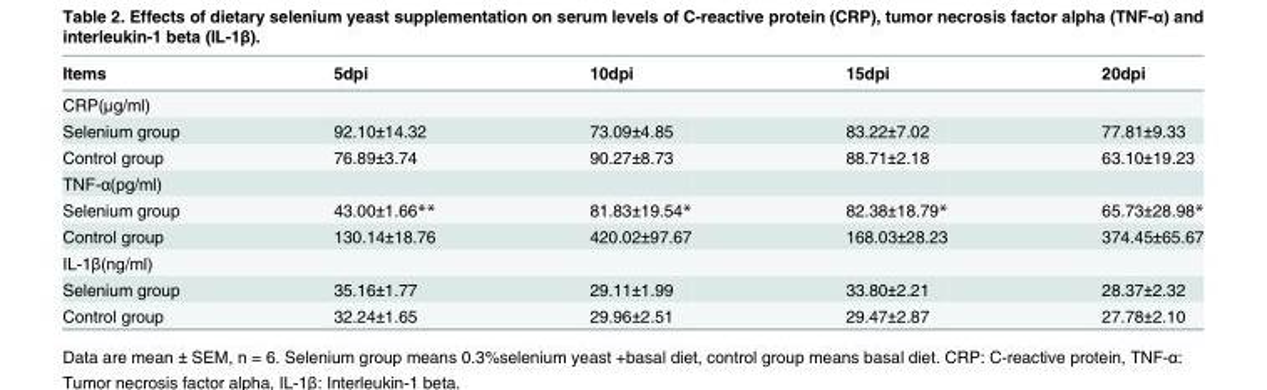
<table><thead><tr><td>Items</td><td>5dpi</td><td>10dpi</td><td>15dpi</td><td>20dpi</td></tr></thead><tbody><tr><td colspan="5">CRP(μg/ml)</td></tr><tr><td>Selenium group</td><td>92.10±14.32</td><td>73.09±4.85</td><td>83.22±7.02</td><td>77.81±9.33</td></tr><tr><td>Control group</td><td>76.89±3.74</td><td>90.27±8.73</td><td>88.71±2.18</td><td>63.10±19.23</td></tr><tr><td colspan="5">TNF-α(pg/ml)</td></tr><tr><td>Selenium group</td><td>43.00±1.66**</td><td>81.83±19.54*</td><td>82.38±18.79*</td><td>65.73±28.98*</td></tr><tr><td>Control group</td><td>130.14±18.76</td><td>420.02±97.67</td><td>168.03±28.23</td><td>374.45±65.67</td></tr><tr><td colspan="5">IL-1β(ng/ml)</td></tr><tr><td>Selenium group</td><td>35.16±1.77</td><td>29.11±1.99</td><td>33.80±2.21</td><td>28.37±2.32</td></tr><tr><td>Control group</td><td>32.24±1.65</td><td>29.96±2.51</td><td>29.47±2.87</td><td>27.78±2.10</td></tr></tbody></table>